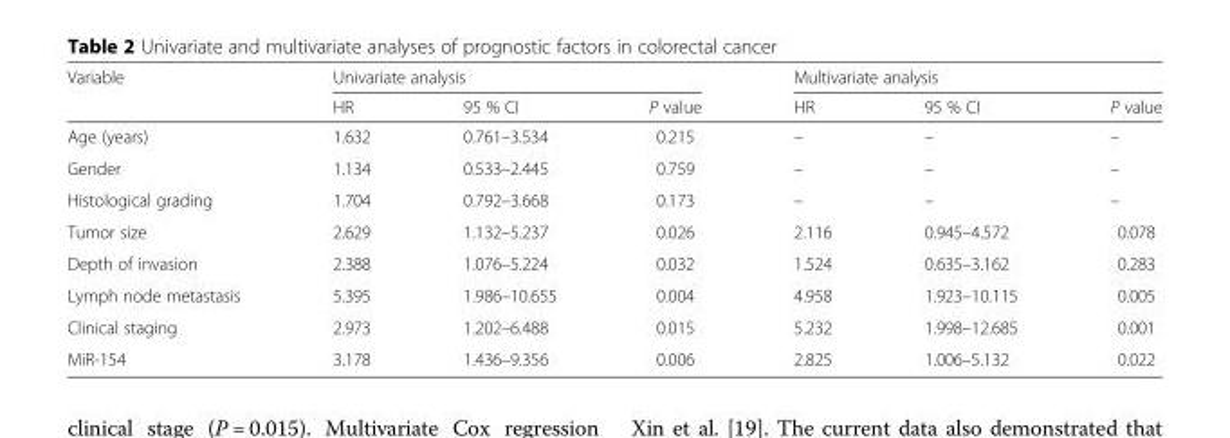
<table><thead><tr><td rowspan="2">Variable</td><td colspan="3">Univariate analysis</td><td colspan="3">Multivariate analysis</td></tr><tr><td>HR</td><td>95 % CI</td><td>P value</td><td>HR</td><td>95 % CI</td><td>P value</td></tr></thead><tbody><tr><td>Age (years)</td><td>1.632</td><td>0.761–3.534</td><td>0.215</td><td>–</td><td>–</td><td>–</td></tr><tr><td>Gender</td><td>1.134</td><td>0.533–2.445</td><td>0.759</td><td>–</td><td>–</td><td>–</td></tr><tr><td>Histological grading</td><td>1.704</td><td>0.792–3.668</td><td>0.173</td><td>–</td><td>–</td><td>–</td></tr><tr><td>Tumor size</td><td>2.629</td><td>1.132–5.237</td><td>0.026</td><td>2.116</td><td>0.945–4.572</td><td>0.078</td></tr><tr><td>Depth of invasion</td><td>2.388</td><td>1.076–5.224</td><td>0.032</td><td>1.524</td><td>0.635–3.162</td><td>0.283</td></tr><tr><td>Lymph node metastasis</td><td>5.395</td><td>1.986–10.655</td><td>0.004</td><td>4.958</td><td>1.923–10.115</td><td>0.005</td></tr><tr><td>Clinical staging</td><td>2.973</td><td>1.202–6.488</td><td>0.015</td><td>5.232</td><td>1.998–12.685</td><td>0.001</td></tr><tr><td>MiR-154</td><td>3.178</td><td>1.436–9.356</td><td>0.006</td><td>2.825</td><td>1.006–5.132</td><td>0.022</td></tr></tbody></table>